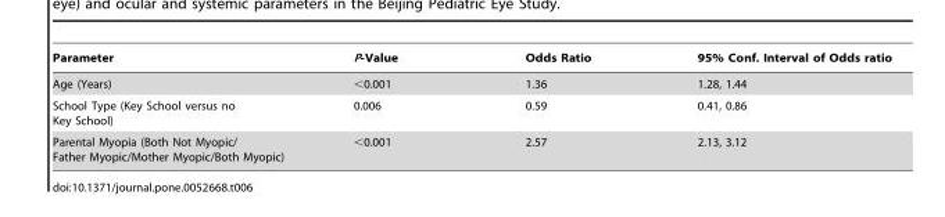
<table><thead><tr><td>Parameter</td><td>P-Value</td><td>Odds Ratio</td><td>95% Conf. Interval of Odds ratio</td></tr></thead><tbody><tr><td>Age (Years)</td><td>&lt;0.001</td><td>1.36</td><td>1.28, 1.44</td></tr><tr><td>School Type (Key School versus no Key School)</td><td>0.006</td><td>0.59</td><td>0.41, 0.86</td></tr><tr><td>Parental Myopia (Both Not Myopic/ Father Myopic/Mother Myopic/Both Myopic)</td><td>&lt;0.001</td><td>2.57</td><td>2.13, 3.12</td></tr></tbody></table>